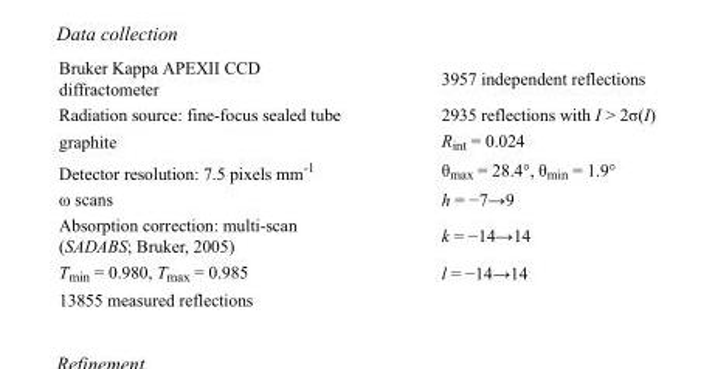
<table><tbody><tr><td>Bruker Kappa APEXII CCD diffractometer</td><td>3957 independent reflections</td></tr><tr><td>Radiation source: fine-focus sealed tube</td><td>2935 reflections with I &gt; 2σ(I)</td></tr><tr><td>graphite</td><td>R<sub>int</sub> = 0.024</td></tr><tr><td>Detector resolution: 7.5 pixels mm<sup>-1</sup></td><td>θ<sub>max</sub> = 28.4°, θ<sub>min</sub> = 1.9°</td></tr><tr><td>ω scans</td><td>h = −7→9</td></tr><tr><td>Absorption correction: multi-scan (SADABS; Bruker, 2005)</td><td>k = −14→14</td></tr><tr><td>T<sub>min</sub> = 0.980, T<sub>max</sub> = 0.985</td><td>l = −14→14</td></tr><tr><td>13855 measured reflections</td><td></td></tr></tbody></table>